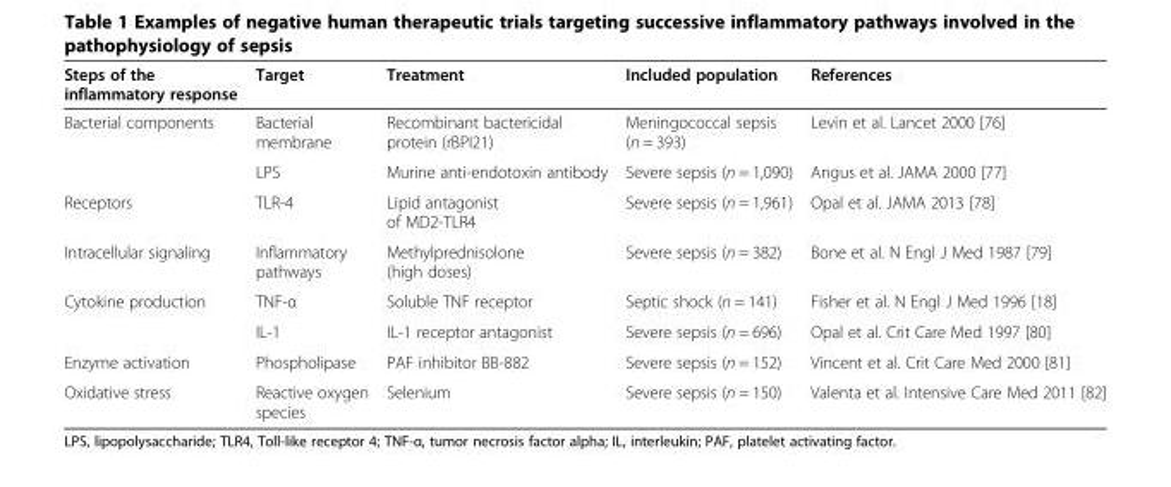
<table><thead><tr><td>Steps of the inflammatory response</td><td>Target</td><td>Treatment</td><td>Included population</td><td>References</td></tr></thead><tbody><tr><td rowspan="2">Bacterial components</td><td>Bacterial membrane</td><td>Recombinant bactericidal protein (rBPI21)</td><td>Meningococcal sepsis (n = 393)</td><td>Levin et al. Lancet 2000 [76]</td></tr><tr><td>LPS</td><td>Murine anti-endotoxin antibody</td><td>Severe sepsis (n = 1,090)</td><td>Angus et al. JAMA 2000 [77]</td></tr><tr><td>Receptors</td><td>TLR-4</td><td>Lipid antagonist of MD2-TLR4</td><td>Severe sepsis (n = 1,961)</td><td>Opal et al. JAMA 2013 [78]</td></tr><tr><td>Intracellular signaling</td><td>Inflammatory pathways</td><td>Methylprednisolone (high doses)</td><td>Severe sepsis (n = 382)</td><td>Bone et al. N Engl J Med 1987 [79]</td></tr><tr><td rowspan="2">Cytokine production</td><td>TNF-α</td><td>Soluble TNF receptor</td><td>Septic shock (n = 141)</td><td>Fisher et al. N Engl J Med 1996 [18]</td></tr><tr><td>IL-1</td><td>IL-1 receptor antagonist</td><td>Severe sepsis (n = 696)</td><td>Opal et al. Crit Care Med 1997 [80]</td></tr><tr><td>Enzyme activation</td><td>Phospholipase</td><td>PAF inhibitor BB-882</td><td>Severe sepsis (n = 152)</td><td>Vincent et al. Crit Care Med 2000 [81]</td></tr><tr><td>Oxidative stress</td><td>Reactive oxygen species</td><td>Selenium</td><td>Severe sepsis (n = 150)</td><td>Valenta et al. Intensive Care Med 2011 [82]</td></tr></tbody></table>